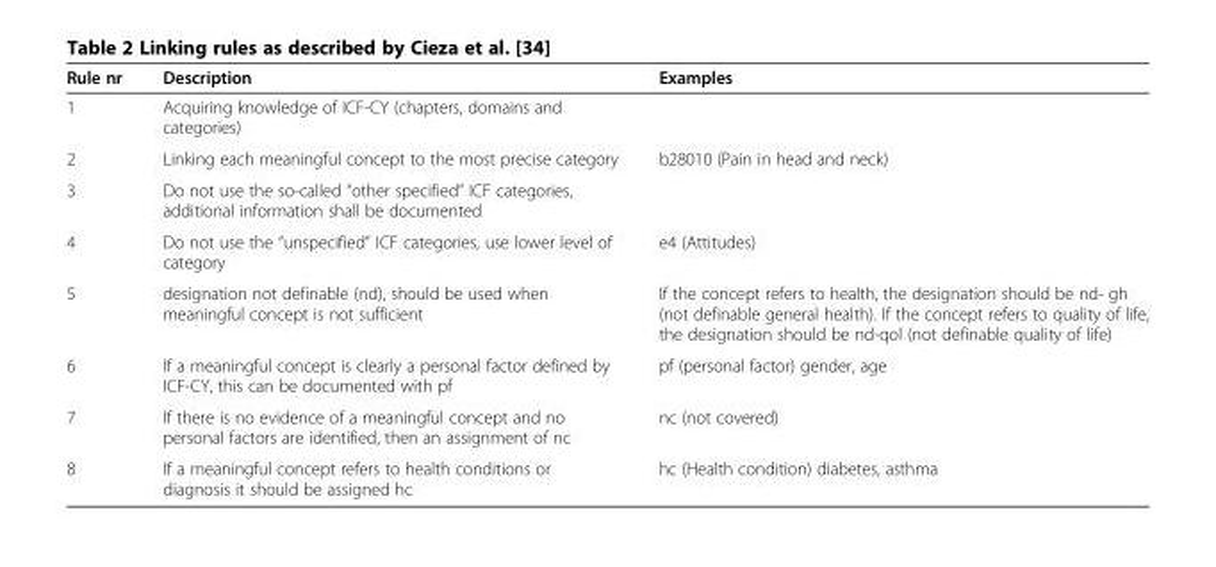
<table><thead><tr><td>Rule nr</td><td>Description</td><td>Examples</td></tr></thead><tbody><tr><td>1</td><td>Acquiring knowledge of ICF-CY (chapters, domains and categories)</td><td></td></tr><tr><td>2</td><td>Linking each meaningful concept to the most precise category</td><td>b28010 (Pain in head and neck)</td></tr><tr><td>3</td><td>Do not use the so-called “other specified” ICF categories, additional information shall be documented</td><td></td></tr><tr><td>4</td><td>Do not use the “unspecified” ICF categories, use lower level of category</td><td>e4 (Attitudes)</td></tr><tr><td>5</td><td>designation not definable (nd), should be used when meaningful concept is not sufficient</td><td>If the concept refers to health, the designation should be nd- gh (not definable general health). If the concept refers to quality of life, the designation should be nd-qol (not definable quality of life)</td></tr><tr><td>6</td><td>If a meaningful concept is clearly a personal factor defined by ICF-CY, this can be documented with pf</td><td>pf (personal factor) gender, age</td></tr><tr><td>7</td><td>If there is no evidence of a meaningful concept and no personal factors are identified, then an assignment of nc</td><td>nc (not covered)</td></tr><tr><td>8</td><td>If a meaningful concept refers to health conditions or diagnosis it should be assigned hc</td><td>hc (Health condition) diabetes, asthma</td></tr></tbody></table>